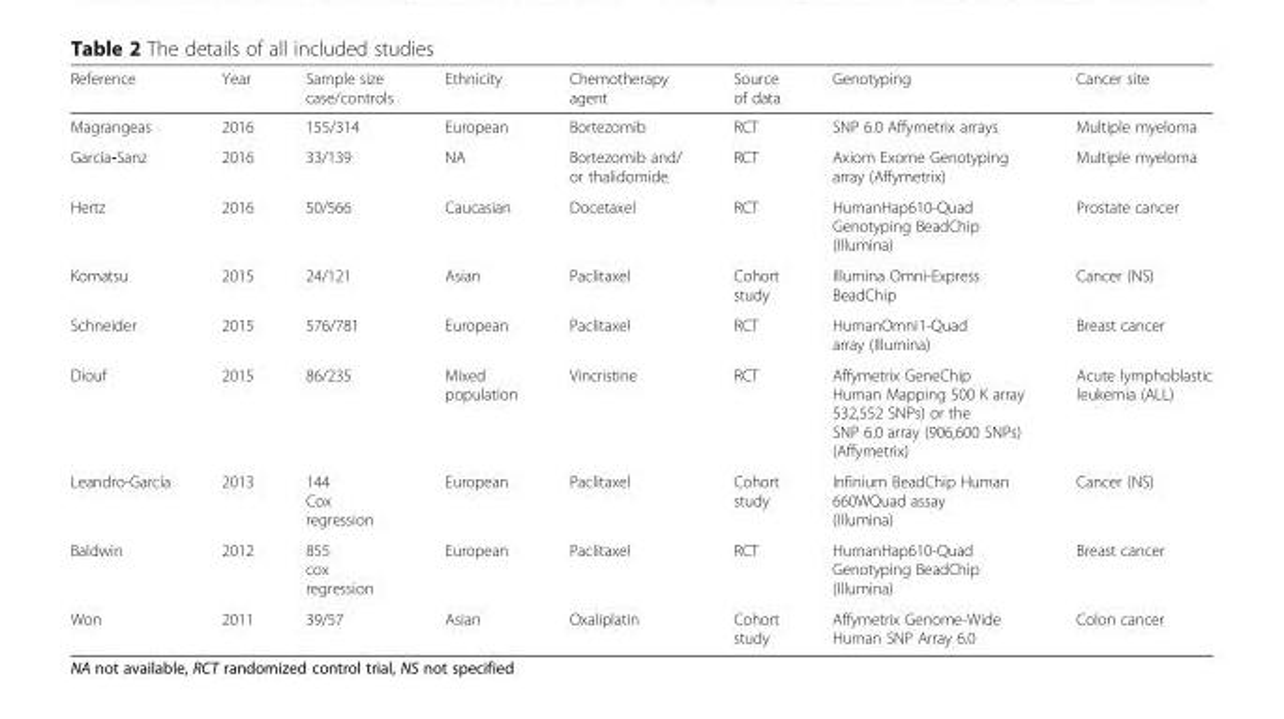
<table><thead><tr><td>Reference</td><td>Year</td><td>Sample size case/controls</td><td>Ethnicity</td><td>Chemotherapy agent</td><td>Source of data</td><td>Genotyping</td><td>Cancer site</td></tr></thead><tbody><tr><td>Magrangeas</td><td>2016</td><td>155/314</td><td>European</td><td>Bortezomib</td><td>RCT</td><td>SNP 6.0 Affymetrix arrays</td><td>Multiple myeloma</td></tr><tr><td>García-Sanz</td><td>2016</td><td>33/139</td><td>NA</td><td>Bortezomib and/ or thalidomide</td><td>RCT</td><td>Axiom Exome Genotyping array (Affymetrix)</td><td>Multiple myeloma</td></tr><tr><td>Hertz</td><td>2016</td><td>50/566</td><td>Caucasian</td><td>Docetaxel</td><td>RCT</td><td>HumanHap610-Quad Genotyping BeadChip (Illumina)</td><td>Prostate cancer</td></tr><tr><td>Komatsu</td><td>2015</td><td>24/121</td><td>Asian</td><td>Paclitaxel</td><td>Cohort study</td><td>Illumina Omni-Express BeadChip</td><td>Cancer (NS)</td></tr><tr><td>Schneider</td><td>2015</td><td>576/781</td><td>European</td><td>Paclitaxel</td><td>RCT</td><td>HumanOmni1-Quad array (Illumina)</td><td>Breast cancer</td></tr><tr><td>Diouf</td><td>2015</td><td>86/235</td><td>Mixed population</td><td>Vincristine</td><td>RCT</td><td>Affymetrix GeneChip Human Mapping 500 K array 532,552 SNPs) or the SNP 6.0 array (906,600 SNPs) (Affymetrix)</td><td>Acute lymphoblastic leukemia (ALL)</td></tr><tr><td>Leandro-García</td><td>2013</td><td>144 Cox regression</td><td>European</td><td>Paclitaxel</td><td>Cohort study</td><td>Infinium BeadChip Human 660WQuad assay (Illumina)</td><td>Cancer (NS)</td></tr><tr><td>Baldwin</td><td>2012</td><td>855 cox regression</td><td>European</td><td>Paclitaxel</td><td>RCT</td><td>HumanHap610-Quad Genotyping BeadChip (Illumina)</td><td>Breast cancer</td></tr><tr><td>Won</td><td>2011</td><td>39/57</td><td>Asian</td><td>Oxaliplatin</td><td>Cohort study</td><td>Affymetrix Genome-Wide Human SNP Array 6.0</td><td>Colon cancer</td></tr></tbody></table>